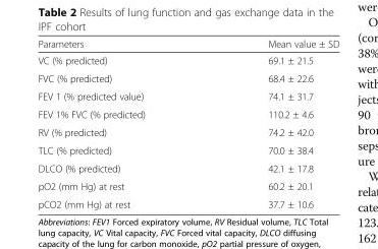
<table><thead><tr><td>Parameters</td><td>Mean value ± SD</td></tr></thead><tbody><tr><td>VC (% predicted)</td><td>69.1 ± 21.5</td></tr><tr><td>FVC (% predicted)</td><td>68.4 ± 22.6</td></tr><tr><td>FEV 1 (% predicted value)</td><td>74.1 ± 31.7</td></tr><tr><td>FEV 1% FVC (% predicted)</td><td>110.2 ± 4.6</td></tr><tr><td>RV (% predicted)</td><td>74.2 ± 42.0</td></tr><tr><td>TLC (% predicted)</td><td>70.0 ± 38.4</td></tr><tr><td>DLCO (% predicted)</td><td>42.1 ± 17.8</td></tr><tr><td>pO2 (mm Hg) at rest</td><td>60.2 ± 20.1</td></tr><tr><td>pCO2 (mm Hg) at rest</td><td>37.7 ± 10.6</td></tr></tbody></table>